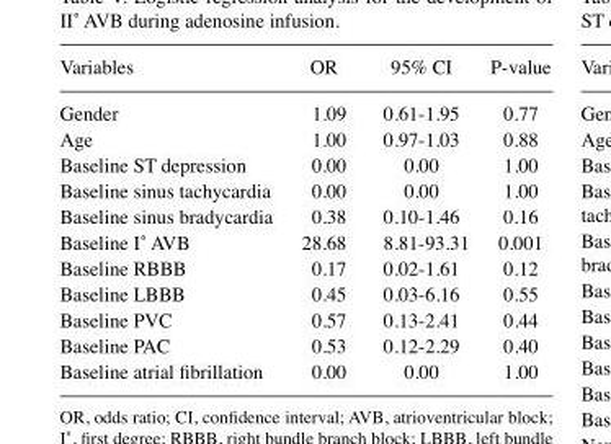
<table><thead><tr><td>Variables</td><td>OR</td><td>95% CI</td><td>P-value</td></tr></thead><tbody><tr><td>Gender</td><td>1.09</td><td>0.61-1.95</td><td>0.77</td></tr><tr><td>Age</td><td>1.00</td><td>0.97-1.03</td><td>0.88</td></tr><tr><td>Baseline ST depression</td><td>0.00</td><td>0.00</td><td>1.00</td></tr><tr><td>Baseline sinus tachycardia</td><td>0.00</td><td>0.00</td><td>1.00</td></tr><tr><td>Baseline sinus bradycardia</td><td>0.38</td><td>0.10-1.46</td><td>0.16</td></tr><tr><td>Baseline I˚ AVB</td><td>28.68</td><td>8.81‑93.31</td><td>0.001</td></tr><tr><td>Baseline RBBB</td><td>0.17</td><td>0.02-1.61</td><td>0.12</td></tr><tr><td>Baseline LBBB</td><td>0.45</td><td>0.03-6.16</td><td>0.55</td></tr><tr><td>Baseline PVC</td><td>0.57</td><td>0.13-2.41</td><td>0.44</td></tr><tr><td>Baseline PAC</td><td>0.53</td><td>0.12-2.29</td><td>0.40</td></tr><tr><td>Baseline atrial fibrillation</td><td>0.00</td><td>0.00</td><td>1.00</td></tr></tbody></table>